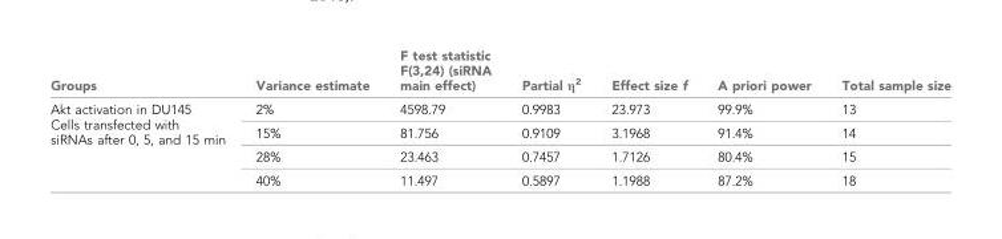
<table><thead><tr><td>Groups</td><td>Variance estimate</td><td>F test statistic F(3,24) (siRNA main effect)</td><td>Partial η<sup>2</sup></td><td>Effect size f</td><td>A priori power</td><td>Total sample size</td></tr></thead><tbody><tr><td rowspan="4">Akt activation in DU145 Cells transfected with siRNAs after 0, 5, and 15 min</td><td>2%</td><td>4598.79</td><td>0.9983</td><td>23.973</td><td>99.9%</td><td>13</td></tr><tr><td>15%</td><td>81.756</td><td>0.9109</td><td>3.1968</td><td>91.4%</td><td>14</td></tr><tr><td>28%</td><td>23.463</td><td>0.7457</td><td>1.7126</td><td>80.4%</td><td>15</td></tr><tr><td>40%</td><td>11.497</td><td>0.5897</td><td>1.1988</td><td>87.2%</td><td>18</td></tr></tbody></table>